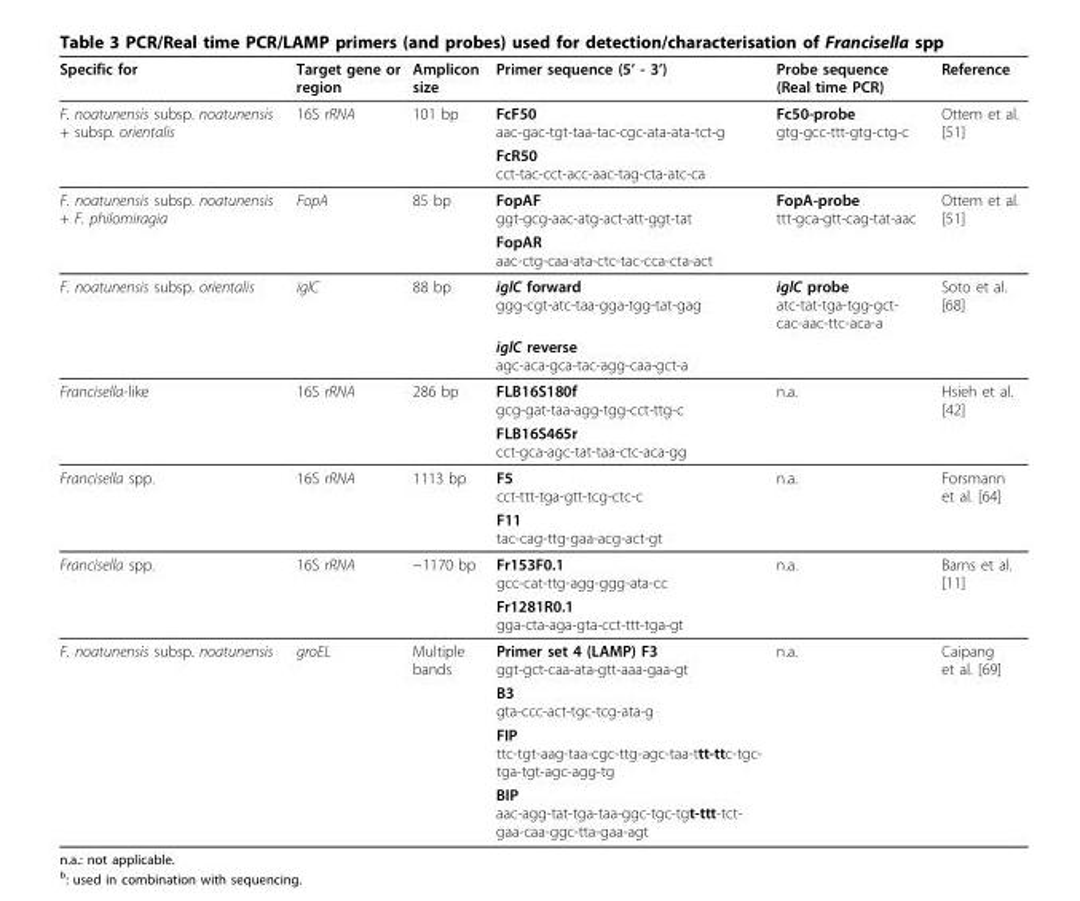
<table><thead><tr><td>Specific for</td><td>Target gene or region</td><td>Amplicon size</td><td>Primer sequence (5’ - 3’)</td><td>Probe sequence (Real time PCR)</td><td>Reference</td></tr></thead><tbody><tr><td rowspan="2">F. noatunensis subsp. noatunensis + subsp. orientalis</td><td>16S rRNA</td><td>101 bp</td><td>FcF50 aac-gac-tgt-taa-tac-cgc-ata-ata-tct-g</td><td>Fc50-probe gtg-gcc-ttt-gtg-ctg-c</td><td>Ottem et al. [51]</td></tr><tr><td></td><td></td><td>FcR50 cct-tac-cct-acc-aac-tag-cta-atc-ca</td><td></td><td></td></tr><tr><td rowspan="2">F. noatunensis subsp. noatunensis + F. philomiragia</td><td>FopA</td><td>85 bp</td><td>FopAF ggt-gcg-aac-atg-act-att-ggt-tat</td><td>FopA-probe ttt-gca-gtt-cag-tat-aac</td><td>Ottem et al. [51]</td></tr><tr><td></td><td></td><td>FopAR aac-ctg-caa-ata-ctc-tac-cca-cta-act</td><td></td><td></td></tr><tr><td rowspan="2">F. noatunensis subsp. orientalis</td><td>iglC</td><td>88 bp</td><td>iglC forward ggg-cgt-atc-taa-gga-tgg-tat-gag</td><td>iglC probe atc-tat-tga-tgg-gct- cac-aac-ttc-aca-a</td><td>Soto et al. [68]</td></tr><tr><td></td><td></td><td>iglC reverse agc-aca-gca-tac-agg-caa-gct-a</td><td></td><td></td></tr><tr><td rowspan="2">Francisella-like</td><td>16S rRNA</td><td>286 bp</td><td>FLB16S180f gcg-gat-taa-agg-tgg-cct-ttg-c</td><td>n.a.</td><td>Hsieh et al. [42]</td></tr><tr><td></td><td></td><td>FLB16S465r cct-gca-agc-tat-taa-ctc-aca-gg</td><td></td><td></td></tr><tr><td rowspan="2">Francisella spp.</td><td>16S rRNA</td><td>1113 bp</td><td>F5 cct-ttt-tga-gtt-tcg-ctc-c</td><td>n.a.</td><td>Forsmann et al. [64]</td></tr><tr><td></td><td></td><td>F11 tac-cag-ttg-gaa-acg-act-gt</td><td></td><td></td></tr><tr><td rowspan="2">Francisella spp.</td><td>16S rRNA</td><td>~1170 bp</td><td>Fr153F0.1 gcc-cat-ttg-agg-ggg-ata-cc</td><td>n.a.</td><td>Barns et al. [11]</td></tr><tr><td></td><td></td><td>Fr1281R0.1 gga-cta-aga-gta-cct-ttt-tga-gt</td><td></td><td></td></tr><tr><td rowspan="4">F. noatunensis subsp. noatunensis</td><td>groEL</td><td>Multiple bands</td><td>Primer set 4 (LAMP) F3 ggt-gct-caa-ata-gtt-aaa-gaa-gt</td><td>n.a.</td><td>Caipang et al. [69]</td></tr><tr><td></td><td></td><td>B3 gta-ccc-act-tgc-tcg-ata-g</td><td></td><td></td></tr><tr><td></td><td></td><td>FIP ttc-tgt-aag-taa-cgc-ttg-agc-taa-ttt-ttc-tgc- tga-tgt-agc-agg-tg</td><td></td><td></td></tr><tr><td></td><td></td><td>BIP aac-agg-tat-tga-taa-ggc-tgc-tgt-ttt-tct- gaa-caa-ggc-tta-gaa-agt</td><td></td><td></td></tr></tbody></table>